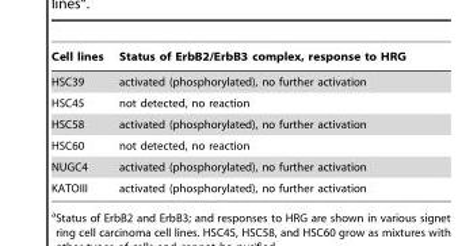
<table><thead><tr><td>Cell lines</td><td>Status of ErbB2/ErbB3 complex, response to HRG</td></tr></thead><tbody><tr><td>HSC39</td><td>activated (phosphorylated), no further activation</td></tr><tr><td>HSC45</td><td>not detected, no reaction</td></tr><tr><td>HSC58</td><td>activated (phosphorylated), no further activation</td></tr><tr><td>HSC60</td><td>not detected, no reaction</td></tr><tr><td>NUGC4</td><td>activated (phosphorylated), no further activation</td></tr><tr><td>KATOIII</td><td>activated (phosphorylated), no further activation</td></tr></tbody></table>